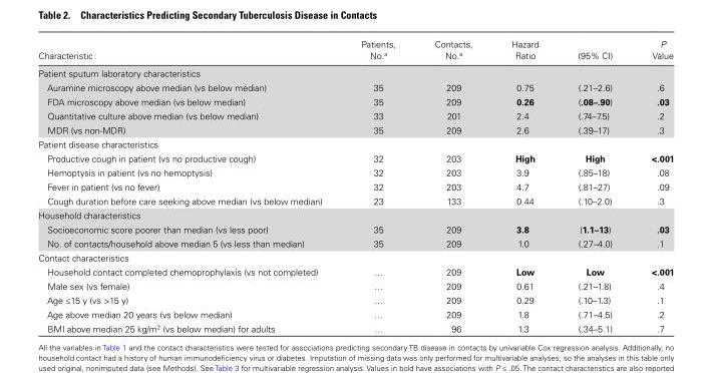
<table><thead><tr><td>Characteristic</td><td>Patients, No.<sup>a</sup></td><td>Contacts, No.<sup>a</sup></td><td>Hazard Ratio</td><td>(95% CI)</td><td>P Value</td></tr></thead><tbody><tr><td colspan="6">Patient sputum laboratory characteristics</td></tr><tr><td>Auramine microscopy above median (vs below median)</td><td>35</td><td>209</td><td>0.75</td><td>(.21–2.6)</td><td>.6</td></tr><tr><td>FDA microscopy above median (vs below median)</td><td>35</td><td>209</td><td>0.26</td><td>(.08–.90)</td><td>.03</td></tr><tr><td>Quantitative culture above median (vs below median)</td><td>33</td><td>201</td><td>2.4</td><td>(.74–7.5)</td><td>.2</td></tr><tr><td>MDR (vs non-MDR)</td><td>35</td><td>209</td><td>2.6</td><td>(.39–17)</td><td>.3</td></tr><tr><td colspan="6">Patient disease characteristics</td></tr><tr><td>Productive cough in patient (vs no productive cough)</td><td>32</td><td>203</td><td>High</td><td>High</td><td>&lt;.001</td></tr><tr><td>Hemoptysis in patient (vs no hemoptysis)</td><td>32</td><td>203</td><td>3.9</td><td>(.85–18)</td><td>.08</td></tr><tr><td>Fever in patient (vs no fever)</td><td>32</td><td>203</td><td>4.7</td><td>(.81–27)</td><td>.09</td></tr><tr><td>Cough duration before care seeking above median (vs below median)</td><td>23</td><td>133</td><td>0.44</td><td>(.10–2.0)</td><td>.3</td></tr><tr><td colspan="6">Household characteristics</td></tr><tr><td>Socioeconomic score poorer than median (vs less poor)</td><td>35</td><td>209</td><td>3.8</td><td>(1.1–13)</td><td>.03</td></tr><tr><td>No. of contacts/household above median 5 (vs less than median)</td><td>35</td><td>209</td><td>1.0</td><td>(.27–4.0)</td><td>.1</td></tr><tr><td colspan="6">Contact characteristics</td></tr><tr><td>Household contact completed chemoprophylaxis (vs not completed)</td><td>…</td><td>209</td><td>Low</td><td>Low</td><td>&lt;.001</td></tr><tr><td>Male sex (vs female)</td><td>…</td><td>209</td><td>0.61</td><td>(.21–1.8)</td><td>.4</td></tr><tr><td>Age ≤15 y (vs &gt;15 y)</td><td>…</td><td>209</td><td>0.29</td><td>(.10–1.3)</td><td>.1</td></tr><tr><td>Age above median 20 years (vs below median)</td><td>…</td><td>209</td><td>1.8</td><td>(.71–4.5)</td><td>.2</td></tr><tr><td>BMI above median 25 kg/m<sup>2</sup> (vs below median) for adults</td><td>…</td><td>96</td><td>1.3</td><td>(.34–5.1)</td><td>.7</td></tr></tbody></table>